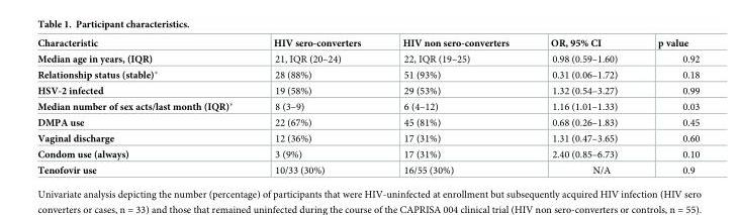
<table><thead><tr><td>Characteristic</td><td>HIV sero-converters</td><td>HIV non sero-converters</td><td>OR, 95% CI</td><td>p value</td></tr></thead><tbody><tr><td>Median age in years, (IQR)</td><td>21, IQR (20–24)</td><td>22, IQR (19–25)</td><td>0.98 (0.59–1.60)</td><td>0.92</td></tr><tr><td>Relationship status (stable)*</td><td>28 (88%)</td><td>51 (93%)</td><td>0.31 (0.06–1.72)</td><td>0.18</td></tr><tr><td>HSV-2 infected</td><td>19 (58%)</td><td>29 (53%)</td><td>1.32 (0.54–3.27)</td><td>0.99</td></tr><tr><td>Median number of sex acts/last month (IQR)*</td><td>8 (3–9)</td><td>6 (4–12)</td><td>1.16 (1.01–1.33)</td><td>0.03</td></tr><tr><td>DMPA use</td><td>22 (67%)</td><td>45 (81%)</td><td>0.68 (0.26–1.83)</td><td>0.45</td></tr><tr><td>Vaginal discharge</td><td>12 (36%)</td><td>17 (31%)</td><td>1.31 (0.47–3.65)</td><td>0.60</td></tr><tr><td>Condom use (always)</td><td>3 (9%)</td><td>17 (31%)</td><td>2.40 (0.85–6.73)</td><td>0.10</td></tr><tr><td>Tenofovir use</td><td>10/33 (30%)</td><td>16/55 (30%)</td><td>N/A</td><td>0.9</td></tr></tbody></table>